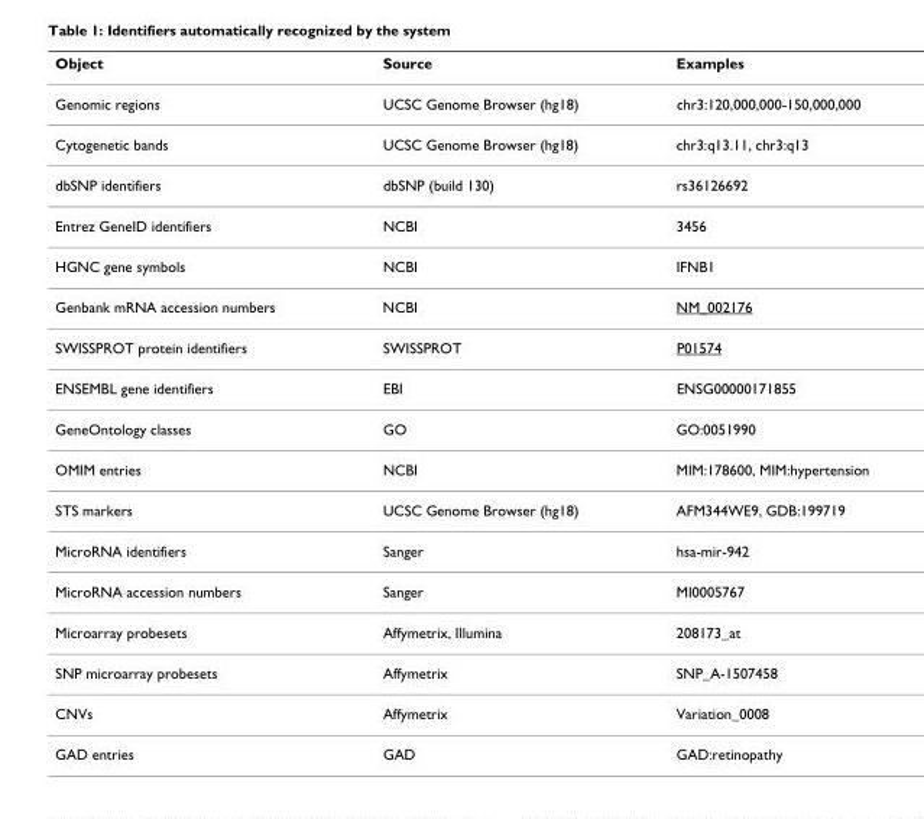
<table><thead><tr><td>Object</td><td>Source</td><td>Examples</td></tr></thead><tbody><tr><td>Genomic regions</td><td>UCSC Genome Browser (hg18)</td><td>chr3:120,000,000-150,000,000</td></tr><tr><td>Cytogenetic bands</td><td>UCSC Genome Browser (hg18)</td><td>chr3:q13.11, chr3:q13</td></tr><tr><td>dbSNP identifiers</td><td>dbSNP (build 130)</td><td>rs36126692</td></tr><tr><td>Entrez GeneID identifiers</td><td>NCBI</td><td>3456</td></tr><tr><td>HGNC gene symbols</td><td>NCBI</td><td>IFNB1</td></tr><tr><td>Genbank mRNA accession numbers</td><td>NCBI</td><td>NM_002176</td></tr><tr><td>SWISSPROT protein identifiers</td><td>SWISSPROT</td><td>P01574</td></tr><tr><td>ENSEMBL gene identifiers</td><td>EBI</td><td>ENSG00000171855</td></tr><tr><td>GeneOntology classes</td><td>GO</td><td>GO:0051990</td></tr><tr><td>OMIM entries</td><td>NCBI</td><td>MIM:178600, MIM:hypertension</td></tr><tr><td>STS markers</td><td>UCSC Genome Browser (hg18)</td><td>AFM344WE9, GDB:199719</td></tr><tr><td>MicroRNA identifiers</td><td>Sanger</td><td>hsa-mir-942</td></tr><tr><td>MicroRNA accession numbers</td><td>Sanger</td><td>MI0005767</td></tr><tr><td>Microarray probesets</td><td>Affymetrix, Illumina</td><td>208173_at</td></tr><tr><td>SNP microarray probesets</td><td>Affymetrix</td><td>SNP_A-1507458</td></tr><tr><td>CNVs</td><td>Affymetrix</td><td>Variation_0008</td></tr><tr><td>GAD entries</td><td>GAD</td><td>GAD:retinopathy</td></tr></tbody></table>